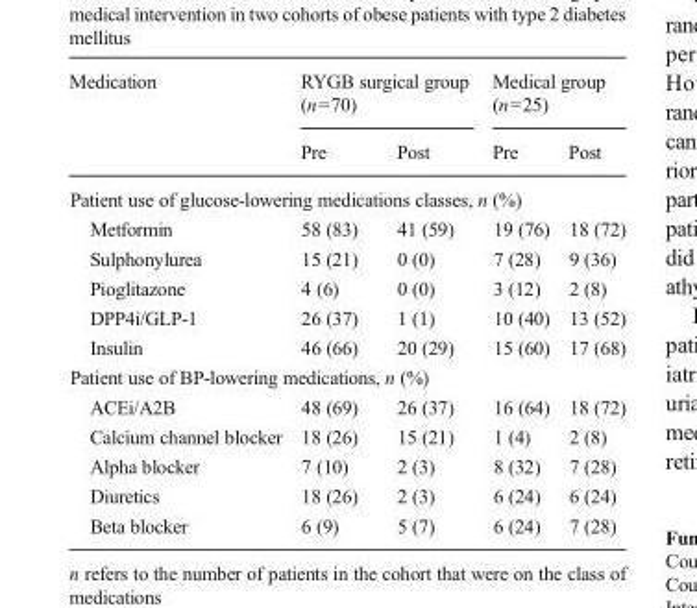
<table><thead><tr><td rowspan="2">Medication</td><td colspan="2">RYGB surgical group (n=70)</td><td colspan="2">Medical group (n=25)</td></tr><tr><td>Pre</td><td>Post</td><td>Pre</td><td>Post</td></tr></thead><tbody><tr><td colspan="5">Patient use of glucose-lowering medications classes, n (%)</td></tr><tr><td>Metformin</td><td>58 (83)</td><td>41 (59)</td><td>19 (76)</td><td>18 (72)</td></tr><tr><td>Sulphonylurea</td><td>15 (21)</td><td>0 (0)</td><td>7 (28)</td><td>9 (36)</td></tr><tr><td>Pioglitazone</td><td>4 (6)</td><td>0 (0)</td><td>3 (12)</td><td>2 (8)</td></tr><tr><td>DPP4i/GLP-1</td><td>26 (37)</td><td>1 (1)</td><td>10 (40)</td><td>13 (52)</td></tr><tr><td>Insulin</td><td>46 (66)</td><td>20 (29)</td><td>15 (60)</td><td>17 (68)</td></tr><tr><td colspan="5">Patient use of BP-lowering medications, n (%)</td></tr><tr><td>ACEi/A2B</td><td>48 (69)</td><td>26 (37)</td><td>16 (64)</td><td>18 (72)</td></tr><tr><td>Calcium channel blocker</td><td>18 (26)</td><td>15 (21)</td><td>1 (4)</td><td>2 (8)</td></tr><tr><td>Alpha blocker</td><td>7 (10)</td><td>2 (3)</td><td>8 (32)</td><td>7 (28)</td></tr><tr><td>Diuretics</td><td>18 (26)</td><td>2 (3)</td><td>6 (24)</td><td>6 (24)</td></tr><tr><td>Beta blocker</td><td>6 (9)</td><td>5 (7)</td><td>6 (24)</td><td>7 (28)</td></tr></tbody></table>